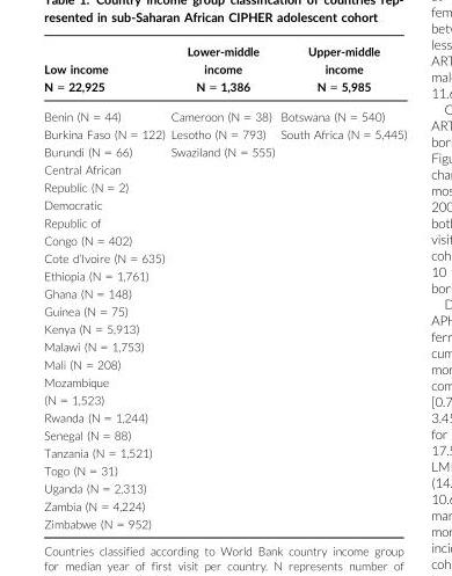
<table><thead><tr><td>Low income N = 22,925</td><td>Lower-middle income N = 1,386</td><td>Upper-middle income N = 5,985</td></tr></thead><tbody><tr><td>Benin (N = 44) Burkina Faso (N = 122) Burundi (N = 66) Central African Republic (N = 2) Democratic Republic of Congo (N = 402) Cote d’Ivoire (N = 635) Ethiopia (N = 1,761) Ghana (N = 148) Guinea (N = 75) Kenya (N = 5,913) Malawi (N = 1,753) Mali (N = 208) Mozambique (N = 1,523) Rwanda (N = 1,244) Senegal (N = 88) Tanzania (N = 1,521) Togo (N = 31) Uganda (N = 2,313) Zambia (N = 4,224) Zimbabwe (N = 952)</td><td>Cameroon (N = 38) Lesotho (N = 793) Swaziland (N = 555)</td><td>Botswana (N = 540) South Africa (N = 5,445)</td></tr></tbody></table>